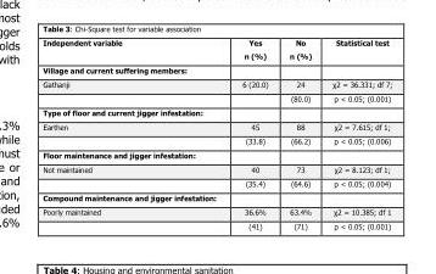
<table><thead><tr><td>Independent variable</td><td>Yes n (%)</td><td>No n (%)</td><td>Statistical test</td></tr></thead><tbody><tr><td colspan="4">Village and current suffering members:</td></tr><tr><td rowspan="2">Gathanji</td><td>6 (20.0)</td><td>24</td><td>χ2 = 36.331; df 7;</td></tr><tr><td></td><td>(80.0)</td><td>ρ &lt; 0.05; (0.001)</td></tr><tr><td colspan="4">Type of floor and current jigger infestation:</td></tr><tr><td rowspan="2">Earthen</td><td>45</td><td>88</td><td>χ2 = 7.615; df 1;</td></tr><tr><td>(33.8)</td><td>(66.2)</td><td>ρ &lt; 0.05; (0.006)</td></tr><tr><td colspan="4">Floor maintenance and jigger infestation:</td></tr><tr><td rowspan="2">Not maintained</td><td>40</td><td>73</td><td>χ2 = 8.123; df 1;</td></tr><tr><td>(35.4)</td><td>(64.6)</td><td>ρ &lt; 0.05; (0.004)</td></tr><tr><td colspan="4">Compound maintenance and jigger infestation:</td></tr><tr><td rowspan="2">Poorly maintained</td><td>36.6%</td><td>63.4%</td><td>χ2 = 10.385; df 1</td></tr><tr><td>(41)</td><td>(71)</td><td>ρ &lt; 0.05; (0.001)</td></tr></tbody></table>